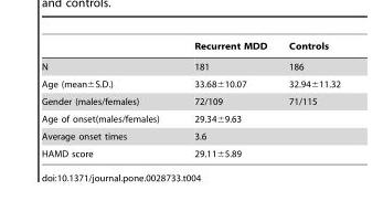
<table><thead><tr><td></td><td>Recurrent MDD</td><td>Controls</td></tr></thead><tbody><tr><td>N</td><td>181</td><td>186</td></tr><tr><td>Age (mean±S.D.)</td><td>33.68±10.07</td><td>32.94±11.32</td></tr><tr><td>Gender (males/females)</td><td>72/109</td><td>71/115</td></tr><tr><td>Age of onset(males/females)</td><td>29.34±9.63</td><td></td></tr><tr><td>Average onset times</td><td>3.6</td><td></td></tr><tr><td>HAMD score</td><td>29.11±5.89</td><td></td></tr></tbody></table>